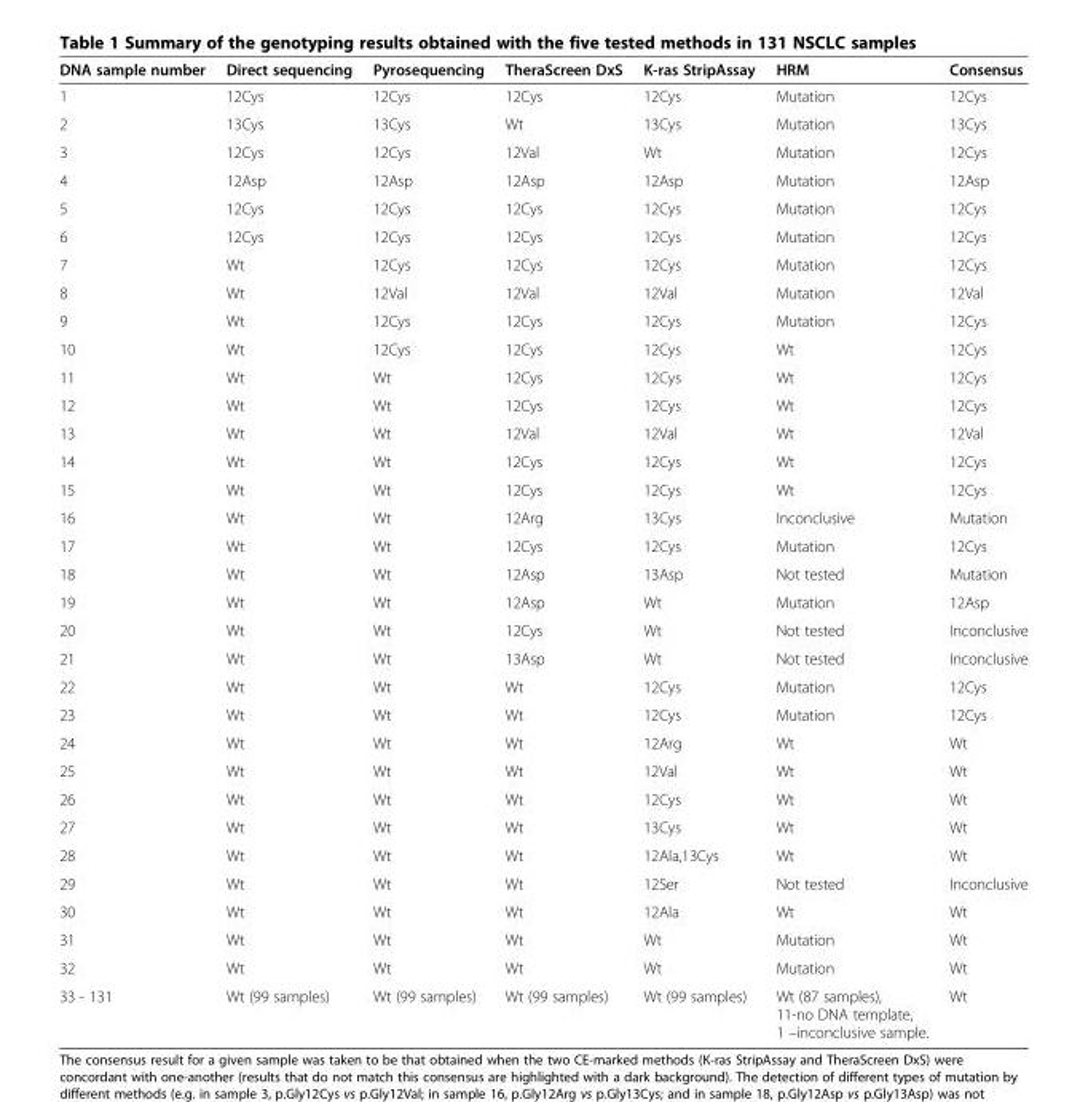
<table><thead><tr><td>DNA sample number</td><td>Direct sequencing</td><td>Pyrosequencing</td><td>TheraScreen DxS</td><td>K-ras StripAssay</td><td>HRM</td><td>Consensus</td></tr></thead><tbody><tr><td>1</td><td>12Cys</td><td>12Cys</td><td>12Cys</td><td>12Cys</td><td>Mutation</td><td>12Cys</td></tr><tr><td>2</td><td>13Cys</td><td>13Cys</td><td>Wt</td><td>13Cys</td><td>Mutation</td><td>13Cys</td></tr><tr><td>3</td><td>12Cys</td><td>12Cys</td><td>12Val</td><td>Wt</td><td>Mutation</td><td>12Cys</td></tr><tr><td>4</td><td>12Asp</td><td>12Asp</td><td>12Asp</td><td>12Asp</td><td>Mutation</td><td>12Asp</td></tr><tr><td>5</td><td>12Cys</td><td>12Cys</td><td>12Cys</td><td>12Cys</td><td>Mutation</td><td>12Cys</td></tr><tr><td>6</td><td>12Cys</td><td>12Cys</td><td>12Cys</td><td>12Cys</td><td>Mutation</td><td>12Cys</td></tr><tr><td>7</td><td>Wt</td><td>12Cys</td><td>12Cys</td><td>12Cys</td><td>Mutation</td><td>12Cys</td></tr><tr><td>8</td><td>Wt</td><td>12Val</td><td>12Val</td><td>12Val</td><td>Mutation</td><td>12Val</td></tr><tr><td>9</td><td>Wt</td><td>12Cys</td><td>12Cys</td><td>12Cys</td><td>Mutation</td><td>12Cys</td></tr><tr><td>10</td><td>Wt</td><td>12Cys</td><td>12Cys</td><td>12Cys</td><td>Wt</td><td>12Cys</td></tr><tr><td>11</td><td>Wt</td><td>Wt</td><td>12Cys</td><td>12Cys</td><td>Wt</td><td>12Cys</td></tr><tr><td>12</td><td>Wt</td><td>Wt</td><td>12Cys</td><td>12Cys</td><td>Wt</td><td>12Cys</td></tr><tr><td>13</td><td>Wt</td><td>Wt</td><td>12Val</td><td>12Val</td><td>Wt</td><td>12Val</td></tr><tr><td>14</td><td>Wt</td><td>Wt</td><td>12Cys</td><td>12Cys</td><td>Wt</td><td>12Cys</td></tr><tr><td>15</td><td>Wt</td><td>Wt</td><td>12Cys</td><td>12Cys</td><td>Wt</td><td>12Cys</td></tr><tr><td>16</td><td>Wt</td><td>Wt</td><td>12Arg</td><td>13Cys</td><td>Inconclusive</td><td>Mutation</td></tr><tr><td>17</td><td>Wt</td><td>Wt</td><td>12Cys</td><td>12Cys</td><td>Mutation</td><td>12Cys</td></tr><tr><td>18</td><td>Wt</td><td>Wt</td><td>12Asp</td><td>13Asp</td><td>Not tested</td><td>Mutation</td></tr><tr><td>19</td><td>Wt</td><td>Wt</td><td>12Asp</td><td>Wt</td><td>Mutation</td><td>12Asp</td></tr><tr><td>20</td><td>Wt</td><td>Wt</td><td>12Cys</td><td>Wt</td><td>Not tested</td><td>Inconclusive</td></tr><tr><td>21</td><td>Wt</td><td>Wt</td><td>13Asp</td><td>Wt</td><td>Not tested</td><td>Inconclusive</td></tr><tr><td>22</td><td>Wt</td><td>Wt</td><td>Wt</td><td>12Cys</td><td>Mutation</td><td>12Cys</td></tr><tr><td>23</td><td>Wt</td><td>Wt</td><td>Wt</td><td>12Cys</td><td>Mutation</td><td>12Cys</td></tr><tr><td>24</td><td>Wt</td><td>Wt</td><td>Wt</td><td>12Arg</td><td>Wt</td><td>Wt</td></tr><tr><td>25</td><td>Wt</td><td>Wt</td><td>Wt</td><td>12Val</td><td>Wt</td><td>Wt</td></tr><tr><td>26</td><td>Wt</td><td>Wt</td><td>Wt</td><td>12Cys</td><td>Wt</td><td>Wt</td></tr><tr><td>27</td><td>Wt</td><td>Wt</td><td>Wt</td><td>13Cys</td><td>Wt</td><td>Wt</td></tr><tr><td>28</td><td>Wt</td><td>Wt</td><td>Wt</td><td>12Ala,13Cys</td><td>Wt</td><td>Wt</td></tr><tr><td>29</td><td>Wt</td><td>Wt</td><td>Wt</td><td>12Ser</td><td>Not tested</td><td>Inconclusive</td></tr><tr><td>30</td><td>Wt</td><td>Wt</td><td>Wt</td><td>12Ala</td><td>Wt</td><td>Wt</td></tr><tr><td>31</td><td>Wt</td><td>Wt</td><td>Wt</td><td>Wt</td><td>Mutation</td><td>Wt</td></tr><tr><td>32</td><td>Wt</td><td>Wt</td><td>Wt</td><td>Wt</td><td>Mutation</td><td>Wt</td></tr><tr><td>33 - 131</td><td>Wt (99 samples)</td><td>Wt (99 samples)</td><td>Wt (99 samples)</td><td>Wt (99 samples)</td><td>Wt (87 samples), 11-no DNA template, 1 –inconclusive sample.</td><td>Wt</td></tr></tbody></table>